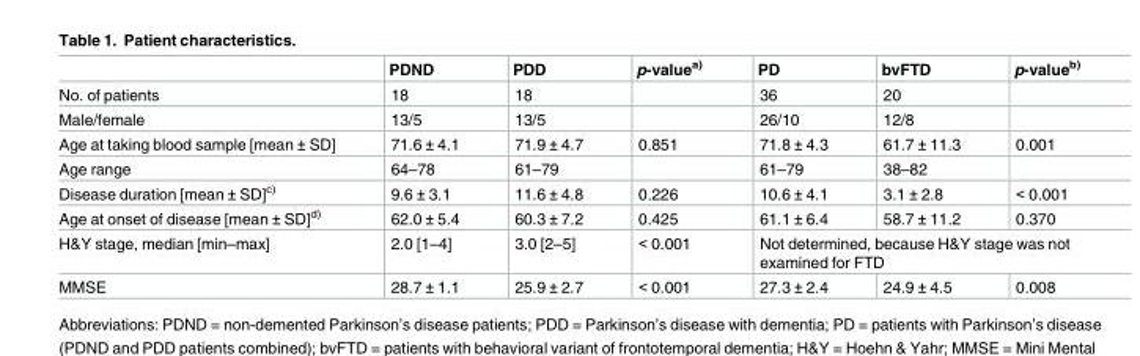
<table><thead><tr><td></td><td>PDND</td><td>PDD</td><td>p-value<sup>a)</sup></td><td>PD</td><td>bvFTD</td><td>p-value<sup>b)</sup></td></tr></thead><tbody><tr><td>No. of patients</td><td>18</td><td>18</td><td></td><td>36</td><td>20</td><td></td></tr><tr><td>Male/female</td><td>13/5</td><td>13/5</td><td></td><td>26/10</td><td>12/8</td><td></td></tr><tr><td>Age at taking blood sample [mean ± SD]</td><td>71.6 ± 4.1</td><td>71.9 ± 4.7</td><td>0.851</td><td>71.8 ± 4.3</td><td>61.7 ± 11.3</td><td>0.001</td></tr><tr><td>Age range</td><td>64–78</td><td>61–79</td><td></td><td>61–79</td><td>38–82</td><td></td></tr><tr><td>Disease duration [mean ± SD]<sup>c)</sup></td><td>9.6 ± 3.1</td><td>11.6 ± 4.8</td><td>0.226</td><td>10.6 ± 4.1</td><td>3.1 ± 2.8</td><td>&lt; 0.001</td></tr><tr><td>Age at onset of disease [mean ± SD]<sup>d)</sup></td><td>62.0 ± 5.4</td><td>60.3 ± 7.2</td><td>0.425</td><td>61.1 ± 6.4</td><td>58.7 ± 11.2</td><td>0.370</td></tr><tr><td>H&amp;Y stage, median [min–max]</td><td>2.0 [1–4]</td><td>3.0 [2–5]</td><td>&lt; 0.001</td><td colspan="3">Not determined, because H&amp;Y stage was not examined for FTD</td></tr><tr><td>MMSE</td><td>28.7 ± 1.1</td><td>25.9 ± 2.7</td><td>&lt; 0.001</td><td>27.3 ± 2.4</td><td>24.9 ± 4.5</td><td>0.008</td></tr></tbody></table>